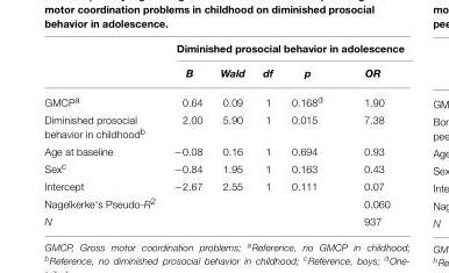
<table><thead><tr><td rowspan="2"></td><td colspan="5">Diminished prosocial behavior in adolescence</td></tr><tr><td>B</td><td>Wald</td><td>df</td><td>p</td><td>OR</td></tr></thead><tbody><tr><td>GMCP<sup>a</sup></td><td>0.64</td><td>0.09</td><td>1</td><td>0.168<sup>d</sup></td><td>1.90</td></tr><tr><td>Diminished prosocial behavior in childhood<sup>b</sup></td><td>2.00</td><td>5.90</td><td>1</td><td>0.015</td><td>7.38</td></tr><tr><td>Age at baseline</td><td>−0.08</td><td>0.16</td><td>1</td><td>0.694</td><td>0.93</td></tr><tr><td>Sex<sup>c</sup></td><td>−0.84</td><td>1.95</td><td>1</td><td>0.163</td><td>0.43</td></tr><tr><td>Intercept</td><td>−2.67</td><td>2.55</td><td>1</td><td>0.111</td><td>0.07</td></tr><tr><td>Nagelkerke‘s Pseudo-R<sup>2</sup></td><td></td><td></td><td></td><td></td><td>0.060</td></tr><tr><td>N</td><td></td><td></td><td></td><td></td><td>937</td></tr></tbody></table>